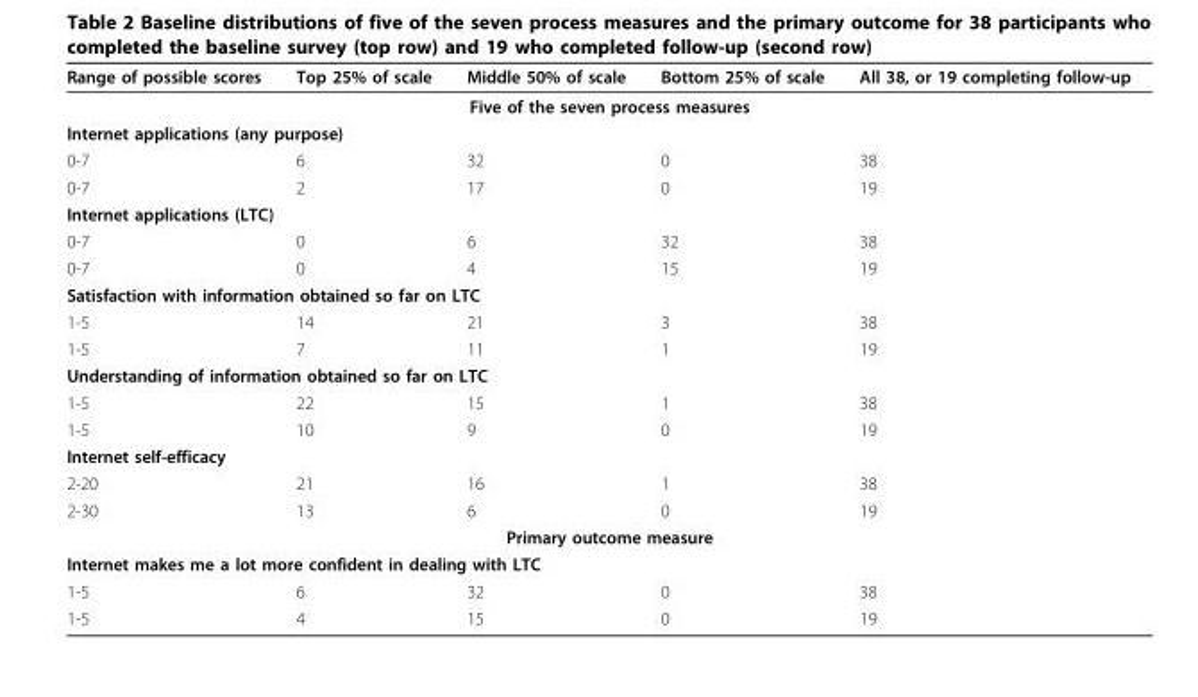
<table><thead><tr><td>Range of possible scores</td><td>Top 25% of scale</td><td>Middle 50% of scale</td><td>Bottom 25% of scale</td><td>All 38, or 19 completing follow-up</td></tr></thead><tbody><tr><td colspan="5">Five of the seven process measures</td></tr><tr><td colspan="5">Internet applications (any purpose)</td></tr><tr><td>0-7</td><td>6</td><td>32</td><td>0</td><td>38</td></tr><tr><td>0-7</td><td>2</td><td>17</td><td>0</td><td>19</td></tr><tr><td colspan="5">Internet applications (LTC)</td></tr><tr><td>0-7</td><td>0</td><td>6</td><td>32</td><td>38</td></tr><tr><td>0-7</td><td>0</td><td>4</td><td>15</td><td>19</td></tr><tr><td colspan="5">Satisfaction with information obtained so far on LTC</td></tr><tr><td>1-5</td><td>14</td><td>21</td><td>3</td><td>38</td></tr><tr><td>1-5</td><td>7</td><td>11</td><td>1</td><td>19</td></tr><tr><td colspan="5">Understanding of information obtained so far on LTC</td></tr><tr><td>1-5</td><td>22</td><td>15</td><td>1</td><td>38</td></tr><tr><td>1-5</td><td>10</td><td>9</td><td>0</td><td>19</td></tr><tr><td colspan="5">Internet self-efficacy</td></tr><tr><td>2-20</td><td>21</td><td>16</td><td>1</td><td>38</td></tr><tr><td>2-30</td><td>13</td><td>6</td><td>0</td><td>19</td></tr><tr><td colspan="5">Primary outcome measure</td></tr><tr><td colspan="5">Internet makes me a lot more confident in dealing with LTC</td></tr><tr><td>1-5</td><td>6</td><td>32</td><td>0</td><td>38</td></tr><tr><td>1-5</td><td>4</td><td>15</td><td>0</td><td>19</td></tr></tbody></table>